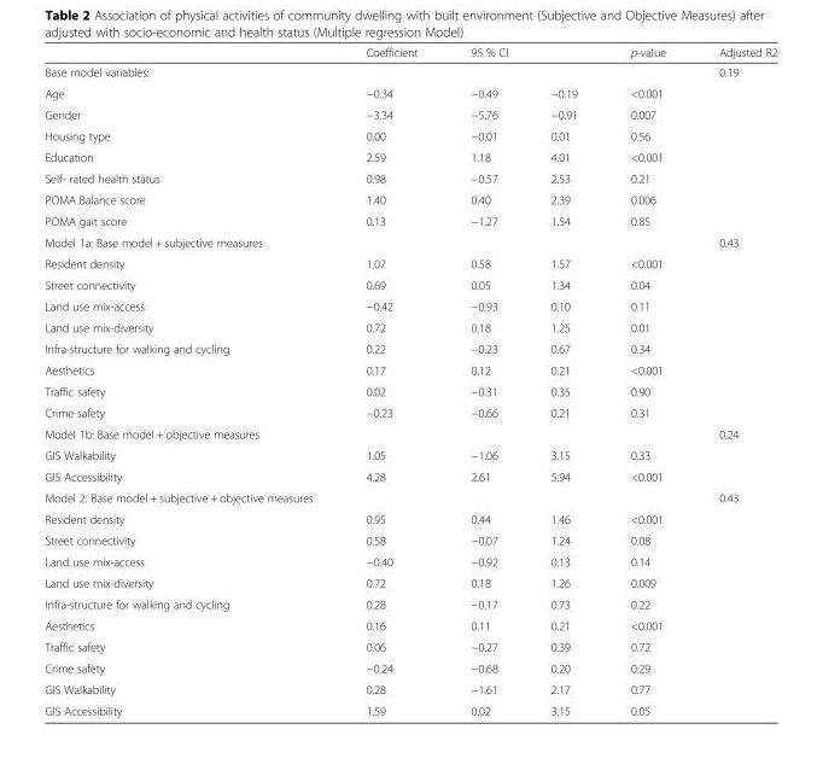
<table><thead><tr><td rowspan="2">Base model variables:</td><td rowspan="2">Coefficient</td><td colspan="2">95 % CI</td><td rowspan="2">p-value</td><td rowspan="2">Adjusted R2 0.19</td></tr><tr><td></td><td></td></tr></thead><tbody><tr><td>Age</td><td>−0.34</td><td>−0.49</td><td>−0.19</td><td>&lt;0.001</td><td></td></tr><tr><td>Gender</td><td>−3.34</td><td>−5.76</td><td>−0.91</td><td>0.007</td><td></td></tr><tr><td>Housing type</td><td>0.00</td><td>−0.01</td><td>0.01</td><td>0.56</td><td></td></tr><tr><td>Education</td><td>2.59</td><td>1.18</td><td>4.01</td><td>&lt;0.001</td><td></td></tr><tr><td>Self- rated health status</td><td>0.98</td><td>−0.57</td><td>2.53</td><td>0.21</td><td></td></tr><tr><td>POMA Balance score</td><td>1.40</td><td>0.40</td><td>2.39</td><td>0.006</td><td></td></tr><tr><td>POMA gait score</td><td>0.13</td><td>−1.27</td><td>1.54</td><td>0.85</td><td></td></tr><tr><td>Model 1a: Base model + subjective measures</td><td></td><td></td><td></td><td></td><td>0.43</td></tr><tr><td>Resident density</td><td>1.07</td><td>0.58</td><td>1.57</td><td>&lt;0.001</td><td></td></tr><tr><td>Street connectivity</td><td>0.69</td><td>0.05</td><td>1.34</td><td>0.04</td><td></td></tr><tr><td>Land use mix-access</td><td>−0.42</td><td>−0.93</td><td>0.10</td><td>0.11</td><td></td></tr><tr><td>Land use mix-diversity</td><td>0.72</td><td>0.18</td><td>1.25</td><td>0.01</td><td></td></tr><tr><td>Infra-structure for walking and cycling</td><td>0.22</td><td>−0.23</td><td>0.67</td><td>0.34</td><td></td></tr><tr><td>Aesthetics</td><td>0.17</td><td>0.12</td><td>0.21</td><td>&lt;0.001</td><td></td></tr><tr><td>Traffic safety</td><td>0.02</td><td>−0.31</td><td>0.35</td><td>0.90</td><td></td></tr><tr><td>Crime safety</td><td>−0.23</td><td>−0.66</td><td>0.21</td><td>0.31</td><td></td></tr><tr><td>Model 1b: Base model + objective measures</td><td></td><td></td><td></td><td></td><td>0.24</td></tr><tr><td>GIS Walkability</td><td>1.05</td><td>−1.06</td><td>3.15</td><td>0.33</td><td></td></tr><tr><td>GIS Accessibility</td><td>4.28</td><td>2.61</td><td>5.94</td><td>&lt;0.001</td><td></td></tr><tr><td>Model 2: Base model + subjective + objective measures</td><td></td><td></td><td></td><td></td><td>0.43</td></tr><tr><td>Resident density</td><td>0.95</td><td>0.44</td><td>1.46</td><td>&lt;0.001</td><td></td></tr><tr><td>Street connectivity</td><td>0.58</td><td>−0.07</td><td>1.24</td><td>0.08</td><td></td></tr><tr><td>Land use mix-access</td><td>−0.40</td><td>−0.92</td><td>0.13</td><td>0.14</td><td></td></tr><tr><td>Land use mix-diversity</td><td>0.72</td><td>0.18</td><td>1.26</td><td>0.009</td><td></td></tr><tr><td>Infra-structure for walking and cycling</td><td>0.28</td><td>−0.17</td><td>0.73</td><td>0.22</td><td></td></tr><tr><td>Aesthetics</td><td>0.16</td><td>0.11</td><td>0.21</td><td>&lt;0.001</td><td></td></tr><tr><td>Traffic safety</td><td>0.06</td><td>−0.27</td><td>0.39</td><td>0.72</td><td></td></tr><tr><td>Crime safety</td><td>−0.24</td><td>−0.68</td><td>0.20</td><td>0.29</td><td></td></tr><tr><td>GIS Walkability</td><td>0.28</td><td>−1.61</td><td>2.17</td><td>0.77</td><td></td></tr><tr><td>GIS Accessibility</td><td>1.59</td><td>0.02</td><td>3.15</td><td>0.05</td><td></td></tr></tbody></table>